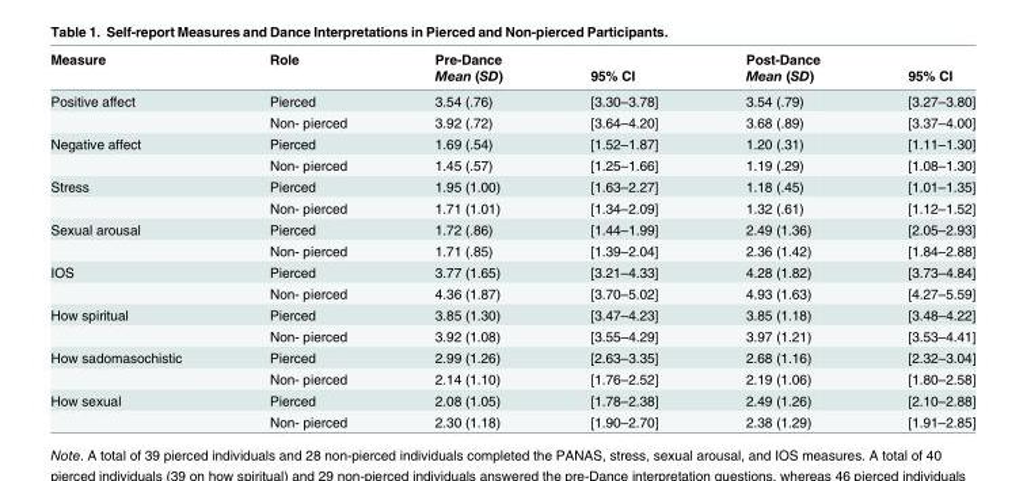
<table><thead><tr><td rowspan="2">Measure</td><td rowspan="2">Role</td><td rowspan="2">Pre-Dance Mean (SD)</td><td rowspan="2">95% CI</td><td rowspan="2">Post-Dance Mean (SD)</td><td rowspan="2">95% CI</td></tr><tr></tr></thead><tbody><tr><td rowspan="2">Positive affect</td><td>Pierced</td><td>3.54 (.76)</td><td>[3.30–3.78]</td><td>3.54 (.79)</td><td>[3.27–3.80]</td></tr><tr><td>Non- pierced</td><td>3.92 (.72)</td><td>[3.64–4.20]</td><td>3.68 (.89)</td><td>[3.37–4.00]</td></tr><tr><td rowspan="2">Negative affect</td><td>Pierced</td><td>1.69 (.54)</td><td>[1.52–1.87]</td><td>1.20 (.31)</td><td>[1.11–1.30]</td></tr><tr><td>Non- pierced</td><td>1.45 (.57)</td><td>[1.25–1.66]</td><td>1.19 (.29)</td><td>[1.08–1.30]</td></tr><tr><td rowspan="2">Stress</td><td>Pierced</td><td>1.95 (1.00)</td><td>[1.63–2.27]</td><td>1.18 (.45)</td><td>[1.01–1.35]</td></tr><tr><td>Non- pierced</td><td>1.71 (1.01)</td><td>[1.34–2.09]</td><td>1.32 (.61)</td><td>[1.12–1.52]</td></tr><tr><td rowspan="2">Sexual arousal</td><td>Pierced</td><td>1.72 (.86)</td><td>[1.44–1.99]</td><td>2.49 (1.36)</td><td>[2.05–2.93]</td></tr><tr><td>Non- pierced</td><td>1.71 (.85)</td><td>[1.39–2.04]</td><td>2.36 (1.42)</td><td>[1.84–2.88]</td></tr><tr><td rowspan="2">IOS</td><td>Pierced</td><td>3.77 (1.65)</td><td>[3.21–4.33]</td><td>4.28 (1.82)</td><td>[3.73–4.84]</td></tr><tr><td>Non- pierced</td><td>4.36 (1.87)</td><td>[3.70–5.02]</td><td>4.93 (1.63)</td><td>[4.27–5.59]</td></tr><tr><td rowspan="2">How spiritual</td><td>Pierced</td><td>3.85 (1.30)</td><td>[3.47–4.23]</td><td>3.85 (1.18)</td><td>[3.48–4.22]</td></tr><tr><td>Non- pierced</td><td>3.92 (1.08)</td><td>[3.55–4.29]</td><td>3.97 (1.21)</td><td>[3.53–4.41]</td></tr><tr><td rowspan="2">How sadomasochistic</td><td>Pierced</td><td>2.99 (1.26)</td><td>[2.63–3.35]</td><td>2.68 (1.16)</td><td>[2.32–3.04]</td></tr><tr><td>Non- pierced</td><td>2.14 (1.10)</td><td>[1.76–2.52]</td><td>2.19 (1.06)</td><td>[1.80–2.58]</td></tr><tr><td rowspan="2">How sexual</td><td>Pierced</td><td>2.08 (1.05)</td><td>[1.78–2.38]</td><td>2.49 (1.26)</td><td>[2.10–2.88]</td></tr><tr><td>Non- pierced</td><td>2.30 (1.18)</td><td>[1.90–2.70]</td><td>2.38 (1.29)</td><td>[1.91–2.85]</td></tr></tbody></table>